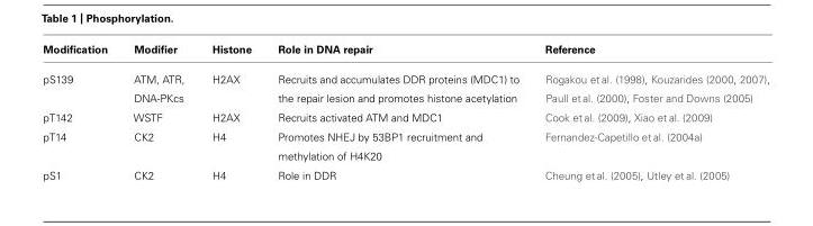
<table><thead><tr><td>Modification</td><td>Modifier</td><td>Histone</td><td>Role in DNA repair</td><td>Reference</td></tr></thead><tbody><tr><td>pS139</td><td>ATM, ATR, DNA-PKcs</td><td>H2AX</td><td>Recruits and accumulates DDR proteins (MDC1) to the repair lesion and promotes histone acetylation</td><td>Rogakou et al. (1998), Kouzarides (2000, 2007), Paull et al. (2000), Foster and Downs (2005)</td></tr><tr><td>pT142</td><td>WSTF</td><td>H2AX</td><td>Recruits activated ATM and MDC1</td><td>Cook et al. (2009), Xiao et al. (2009)</td></tr><tr><td>pT14</td><td>CK2</td><td>H4</td><td>Promotes NHEJ by 53BP1 recruitment and methylation of H4K20</td><td>Fernandez-Capetillo et al. (2004a)</td></tr><tr><td>pS1</td><td>CK2</td><td>H4</td><td>Role in DDR</td><td>Cheung et al. (2005), Utley et al. (2005)</td></tr></tbody></table>